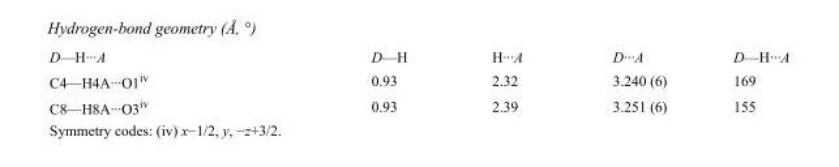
<table><tbody><tr><td>D—H···A</td><td>D—H</td><td>H···A</td><td>D···A</td><td>D—H···A</td></tr><tr><td>C4—H4A···O1<sup>iv</sup></td><td>0.93</td><td>2.32</td><td>3.240 (6)</td><td>169</td></tr><tr><td>C8—H8A···O3<sup>iv</sup></td><td>0.93</td><td>2.39</td><td>3.251 (6)</td><td>155</td></tr></tbody></table>